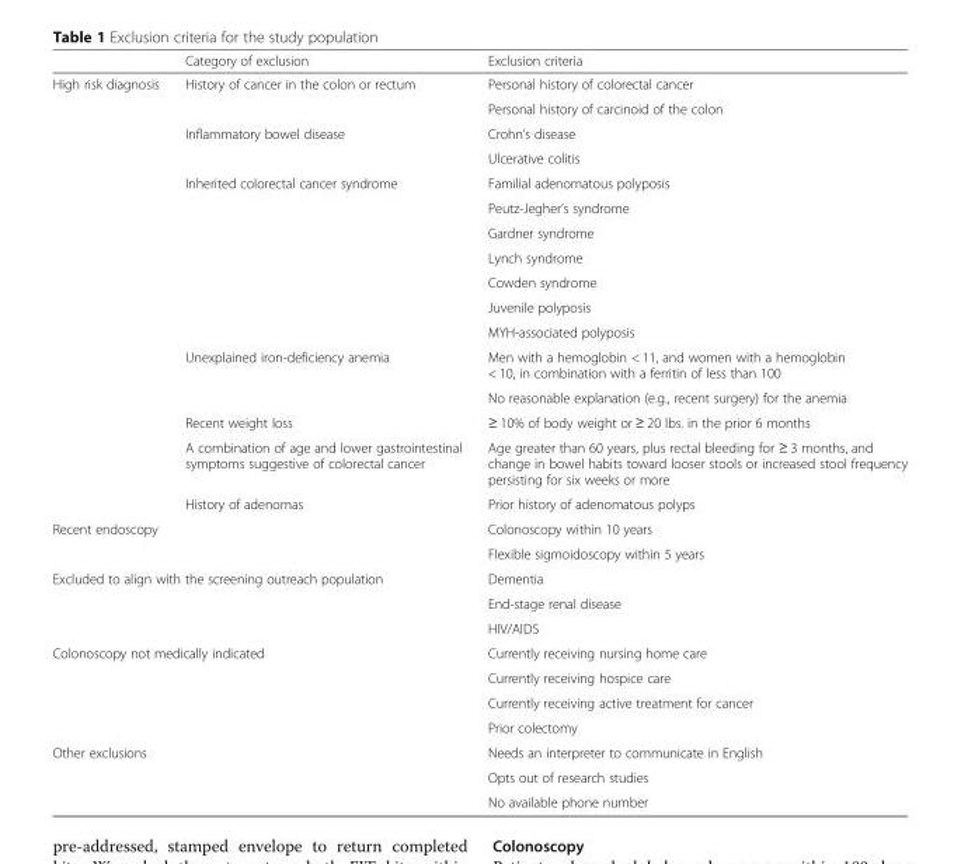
<table><thead><tr><td></td><td>Category of exclusion</td><td>Exclusion criteria</td></tr></thead><tbody><tr><td rowspan="16">High risk diagnosis</td><td rowspan="2">History of cancer in the colon or rectum</td><td>Personal history of colorectal cancer</td></tr><tr><td>Personal history of carcinoid of the colon</td></tr><tr><td rowspan="2">Inflammatory bowel disease</td><td>Crohn’s disease</td></tr><tr><td>Ulcerative colitis</td></tr><tr><td rowspan="7">Inherited colorectal cancer syndrome</td><td>Familial adenomatous polyposis</td></tr><tr><td>Peutz-Jegher’s syndrome</td></tr><tr><td>Gardner syndrome</td></tr><tr><td>Lynch syndrome</td></tr><tr><td>Cowden syndrome</td></tr><tr><td>Juvenile polyposis</td></tr><tr><td>MYH-associated polyposis</td></tr><tr><td rowspan="2">Unexplained iron-deficiency anemia</td><td>Men with a hemoglobin &lt; 11, and women with a hemoglobin &lt; 10, in combination with a ferritin of less than 100</td></tr><tr><td>No reasonable explanation (e.g., recent surgery) for the anemia</td></tr><tr><td>Recent weight loss</td><td>≥ 10% of body weight or ≥ 20 lbs. in the prior 6 months</td></tr><tr><td>A combination of age and lower gastrointestinal symptoms suggestive of colorectal cancer</td><td>Age greater than 60 years, plus rectal bleeding for ≥ 3 months, and change in bowel habits toward looser stools or increased stool frequency persisting for six weeks or more</td></tr><tr><td>History of adenomas</td><td>Prior history of adenomatous polyps</td></tr><tr><td rowspan="2" colspan="2">Recent endoscopy</td><td>Colonoscopy within 10 years</td></tr><tr><td>Flexible sigmoidoscopy within 5 years</td></tr><tr><td rowspan="3" colspan="2">Excluded to align with the screening outreach population</td><td>Dementia</td></tr><tr><td>End-stage renal disease</td></tr><tr><td>HIV/AIDS</td></tr><tr><td rowspan="4" colspan="2">Colonoscopy not medically indicated</td><td>Currently receiving nursing home care</td></tr><tr><td>Currently receiving hospice care</td></tr><tr><td>Currently receiving active treatment for cancer</td></tr><tr><td>Prior colectomy</td></tr><tr><td rowspan="3" colspan="2">Other exclusions</td><td>Needs an interpreter to communicate in English</td></tr><tr><td>Opts out of research studies</td></tr><tr><td>No available phone number</td></tr></tbody></table>